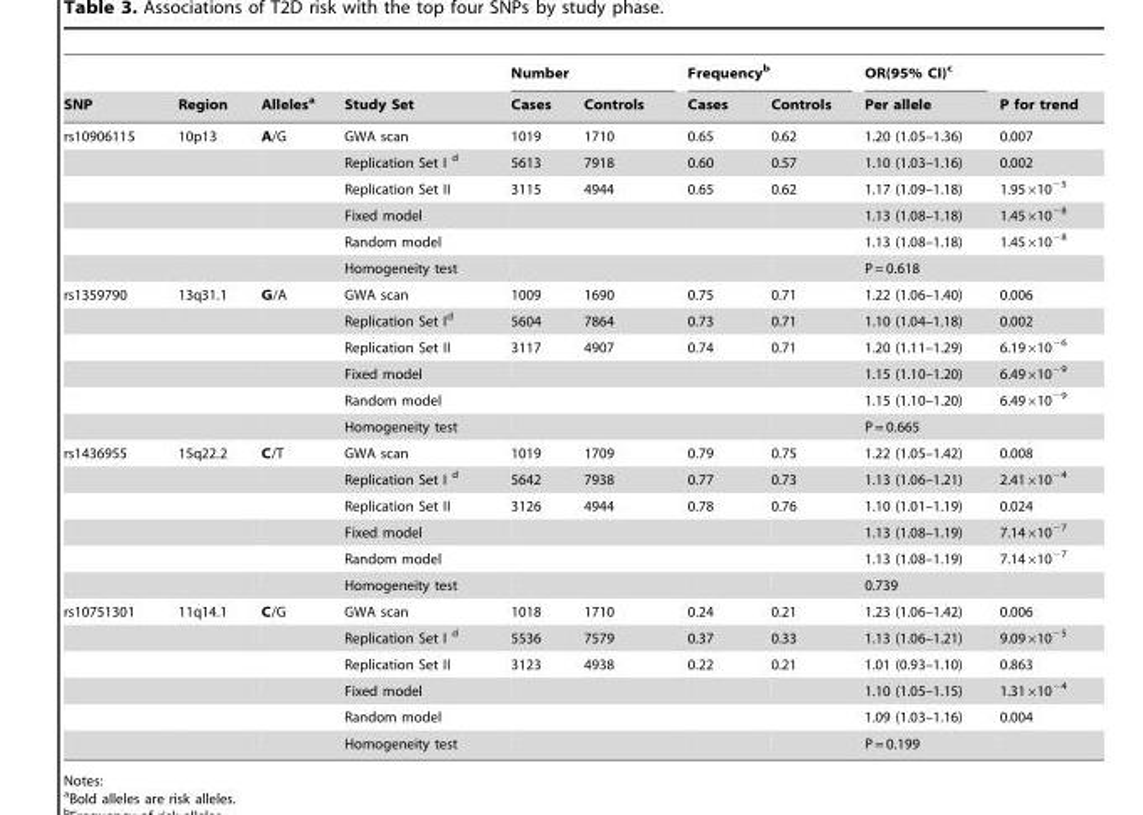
<table><thead><tr><td rowspan="2">SNP</td><td rowspan="2">Region</td><td rowspan="2">Alleles<sup>a</sup></td><td rowspan="2">Study Set</td><td colspan="2">Number</td><td colspan="2">Frequency<sup>b</sup></td><td rowspan="2">OR(95% CI)<sup>c</sup> Per allele</td><td rowspan="2">P for trend</td></tr><tr><td>Cases</td><td>Controls</td><td>Cases</td><td>Controls</td></tr></thead><tbody><tr><td rowspan="6">rs10906115</td><td>10p13</td><td>A/G</td><td>GWA scan</td><td>1019</td><td>1710</td><td>0.65</td><td>0.62</td><td>1.20 (1.05–1.36)</td><td>0.007</td></tr><tr><td></td><td></td><td>Replication Set I d</td><td>5613</td><td>7918</td><td>0.60</td><td>0.57</td><td>1.10 (1.03–1.16)</td><td>0.002</td></tr><tr><td></td><td></td><td>Replication Set II</td><td>3115</td><td>4944</td><td>0.65</td><td>0.62</td><td>1.17 (1.09–1.18)</td><td>1.95×10<sup>−5</sup></td></tr><tr><td></td><td></td><td>Fixed model</td><td></td><td></td><td></td><td></td><td>1.13 (1.08–1.18)</td><td>1.45×10<sup>−8</sup></td></tr><tr><td></td><td></td><td>Random model</td><td></td><td></td><td></td><td></td><td>1.13 (1.08–1.18)</td><td>1.45×10<sup>−8</sup></td></tr><tr><td></td><td></td><td>Homogeneity test</td><td></td><td></td><td></td><td></td><td>P = 0.618</td><td></td></tr><tr><td rowspan="6">rs1359790</td><td>13q31.1</td><td>G/A</td><td>GWA scan</td><td>1009</td><td>1690</td><td>0.75</td><td>0.71</td><td>1.22 (1.06–1.40)</td><td>0.006</td></tr><tr><td></td><td></td><td>Replication Set I<sup>d</sup></td><td>5604</td><td>7864</td><td>0.73</td><td>0.71</td><td>1.10 (1.04–1.18)</td><td>0.002</td></tr><tr><td></td><td></td><td>Replication Set II</td><td>3117</td><td>4907</td><td>0.74</td><td>0.71</td><td>1.20 (1.11–1.29)</td><td>6.19×10<sup>−6</sup></td></tr><tr><td></td><td></td><td>Fixed model</td><td></td><td></td><td></td><td></td><td>1.15 (1.10–1.20)</td><td>6.49×10<sup>−9</sup></td></tr><tr><td></td><td></td><td>Random model</td><td></td><td></td><td></td><td></td><td>1.15 (1.10–1.20)</td><td>6.49×10<sup>−9</sup></td></tr><tr><td></td><td></td><td>Homogeneity test</td><td></td><td></td><td></td><td></td><td>P = 0.665</td><td></td></tr><tr><td rowspan="6">rs1436955</td><td>15q22.2</td><td>C/T</td><td>GWA scan</td><td>1019</td><td>1709</td><td>0.79</td><td>0.75</td><td>1.22 (1.05–1.42)</td><td>0.008</td></tr><tr><td></td><td></td><td>Replication Set I d</td><td>5642</td><td>7938</td><td>0.77</td><td>0.73</td><td>1.13 (1.06–1.21)</td><td>2.41×10<sup>−4</sup></td></tr><tr><td></td><td></td><td>Replication Set II</td><td>3126</td><td>4944</td><td>0.78</td><td>0.76</td><td>1.10 (1.01–1.19)</td><td>0.024</td></tr><tr><td></td><td></td><td>Fixed model</td><td></td><td></td><td></td><td></td><td>1.13 (1.08–1.19)</td><td>7.14×10<sup>−7</sup></td></tr><tr><td></td><td></td><td>Random model</td><td></td><td></td><td></td><td></td><td>1.13 (1.08–1.19)</td><td>7.14×10<sup>−7</sup></td></tr><tr><td></td><td></td><td>Homogeneity test</td><td></td><td></td><td></td><td></td><td>0.739</td><td></td></tr><tr><td rowspan="6">rs10751301</td><td>11q14.1</td><td>C/G</td><td>GWA scan</td><td>1018</td><td>1710</td><td>0.24</td><td>0.21</td><td>1.23 (1.06–1.42)</td><td>0.006</td></tr><tr><td></td><td></td><td>Replication Set I d</td><td>5536</td><td>7579</td><td>0.37</td><td>0.33</td><td>1.13 (1.06–1.21)</td><td>9.09×10<sup>−5</sup></td></tr><tr><td></td><td></td><td>Replication Set II</td><td>3123</td><td>4938</td><td>0.22</td><td>0.21</td><td>1.01 (0.93–1.10)</td><td>0.863</td></tr><tr><td></td><td></td><td>Fixed model</td><td></td><td></td><td></td><td></td><td>1.10 (1.05–1.15)</td><td>1.31×10<sup>−4</sup></td></tr><tr><td></td><td></td><td>Random model</td><td></td><td></td><td></td><td></td><td>1.09 (1.03–1.16)</td><td>0.004</td></tr><tr><td></td><td></td><td>Homogeneity test</td><td></td><td></td><td></td><td></td><td>P = 0.199</td><td></td></tr></tbody></table>